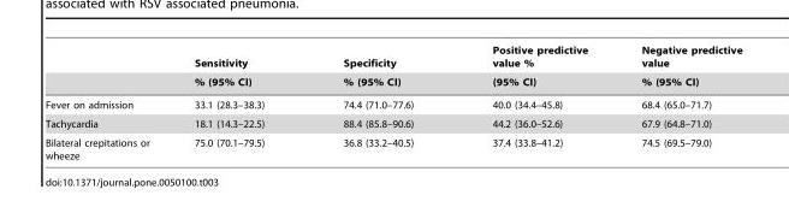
<table><thead><tr><td rowspan="2"></td><td rowspan="2">Sensitivity % (95% CI)</td><td rowspan="2">Specificity % (95% CI)</td><td rowspan="2">Positive predictive value % (95% CI)</td><td rowspan="2">Negative predictive value % (95% CI)</td></tr><tr></tr></thead><tbody><tr><td>Fever on admission</td><td>33.1 (28.3–38.3)</td><td>74.4 (71.0–77.6)</td><td>40.0 (34.4–45.8)</td><td>68.4 (65.0–71.7)</td></tr><tr><td>Tachycardia</td><td>18.1 (14.3–22.5)</td><td>88.4 (85.8–90.6)</td><td>44.2 (36.0–52.6)</td><td>67.9 (64.8–71.0)</td></tr><tr><td>Bilateral crepitations or wheeze</td><td>75.0 (70.1–79.5)</td><td>36.8 (33.2–40.5)</td><td>37.4 (33.8–41.2)</td><td>74.5 (69.5–79.0)</td></tr></tbody></table>